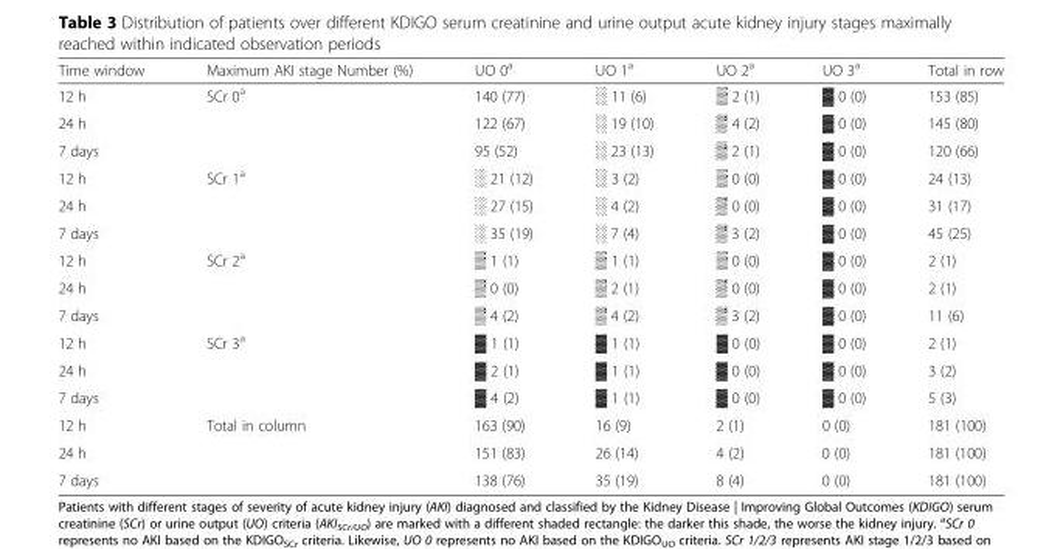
<table><thead><tr><td>Time window</td><td>Maximum AKI stage Number (%)</td><td>UO 0<sup>a</sup></td><td>UO 1<sup>a</sup></td><td>UO 2<sup>a</sup></td><td>UO 3<sup>a</sup></td><td>Total in row</td></tr></thead><tbody><tr><td>12 h</td><td rowspan="3">SCr 0<sup>a</sup></td><td>140 (77)</td><td>░ 11 (6)</td><td>▒ 2 (1)</td><td>▓ 0 (0)</td><td>153 (85)</td></tr><tr><td>24 h</td><td>122 (67)</td><td>░ 19 (10)</td><td>▒ 4 (2)</td><td>▓ 0 (0)</td><td>145 (80)</td></tr><tr><td>7 days</td><td>95 (52)</td><td>░ 23 (13)</td><td>▒ 2 (1)</td><td>▓ 0 (0)</td><td>120 (66)</td></tr><tr><td>12 h</td><td rowspan="3">SCr 1<sup>a</sup></td><td>░ 21 (12)</td><td>░ 3 (2)</td><td>▒ 0 (0)</td><td>▓ 0 (0)</td><td>24 (13)</td></tr><tr><td>24 h</td><td>░ 27 (15)</td><td>░ 4 (2)</td><td>▒ 0 (0)</td><td>▓ 0 (0)</td><td>31 (17)</td></tr><tr><td>7 days</td><td>░ 35 (19)</td><td>░ 7 (4)</td><td>▒ 3 (2)</td><td>▓ 0 (0)</td><td>45 (25)</td></tr><tr><td>12 h</td><td rowspan="3">SCr 2<sup>a</sup></td><td>▒ 1 (1)</td><td>▒ 1 (1)</td><td>▒ 0 (0)</td><td>▓ 0 (0)</td><td>2 (1)</td></tr><tr><td>24 h</td><td>▒ 0 (0)</td><td>▒ 2 (1)</td><td>▒ 0 (0)</td><td>▓ 0 (0)</td><td>2 (1)</td></tr><tr><td>7 days</td><td>▒ 4 (2)</td><td>▒ 4 (2)</td><td>▒ 3 (2)</td><td>▓ 0 (0)</td><td>11 (6)</td></tr><tr><td>12 h</td><td rowspan="3">SCr 3<sup>a</sup></td><td>▓ 1 (1)</td><td>▓ 1 (1)</td><td>▓ 0 (0)</td><td>▓ 0 (0)</td><td>2 (1)</td></tr><tr><td>24 h</td><td>▓ 2 (1)</td><td>▓ 1 (1)</td><td>▓ 0 (0)</td><td>▓ 0 (0)</td><td>3 (2)</td></tr><tr><td>7 days</td><td>▓ 4 (2)</td><td>▓ 1 (1)</td><td>▓ 0 (0)</td><td>▓ 0 (0)</td><td>5 (3)</td></tr><tr><td>12 h</td><td rowspan="3">Total in column</td><td>163 (90)</td><td>16 (9)</td><td>2 (1)</td><td>0 (0)</td><td>181 (100)</td></tr><tr><td>24 h</td><td>151 (83)</td><td>26 (14)</td><td>4 (2)</td><td>0 (0)</td><td>181 (100)</td></tr><tr><td>7 days</td><td>138 (76)</td><td>35 (19)</td><td>8 (4)</td><td>0 (0)</td><td>181 (100)</td></tr></tbody></table>